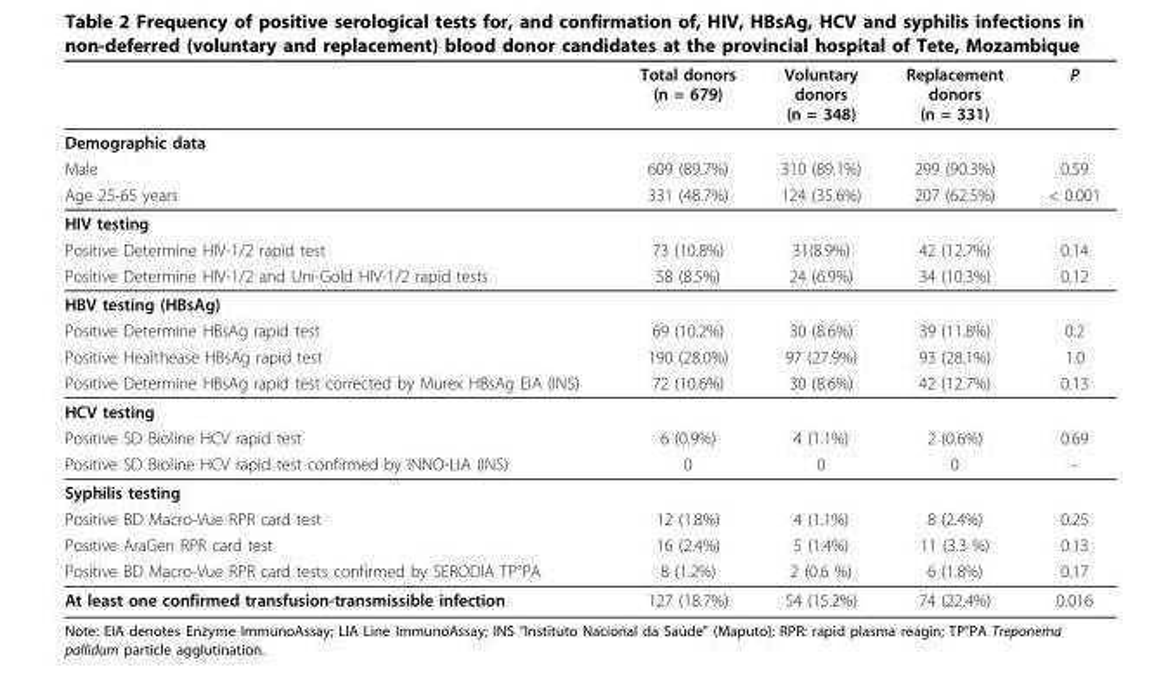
<table><thead><tr><td></td><td>Total donors (n = 679)</td><td>Voluntary donors (n = 348)</td><td>Replacement donors (n = 331)</td><td>P</td></tr></thead><tbody><tr><td colspan="5">Demographic data</td></tr><tr><td>Male</td><td>609 (89.7%)</td><td>310 (89.1%)</td><td>299 (90.3%)</td><td>0.59</td></tr><tr><td>Age 25-65 years</td><td>331 (48.7%)</td><td>124 (35.6%)</td><td>207 (62.5%)</td><td>&lt; 0.001</td></tr><tr><td colspan="5">HIV testing</td></tr><tr><td>Positive Determine HIV-1/2 rapid test</td><td>73 (10.8%)</td><td>31(8.9%)</td><td>42 (12.7%)</td><td>0.14</td></tr><tr><td>Positive Determine HIV-1/2 and Uni-Gold HIV-1/2 rapid tests</td><td>58 (8.5%)</td><td>24 (6.9%)</td><td>34 (10.3%)</td><td>0.12</td></tr><tr><td colspan="5">HBV testing (HBsAg)</td></tr><tr><td>Positive Determine HBsAg rapid test</td><td>69 (10.2%)</td><td>30 (8.6%)</td><td>39 (11.8%)</td><td>0.2</td></tr><tr><td>Positive Healthease HBsAg rapid test</td><td>190 (28.0%)</td><td>97 (27.9%)</td><td>93 (28.1%)</td><td>1.0</td></tr><tr><td>Positive Determine HBsAg rapid test corrected by Murex HBsAg EIA (INS)</td><td>72 (10.6%)</td><td>30 (8.6%)</td><td>42 (12.7%)</td><td>0.13</td></tr><tr><td colspan="5">HCV testing</td></tr><tr><td>Positive SD Bioline HCV rapid test</td><td>6 (0.9%)</td><td>4 (1.1%)</td><td>2 (0.6%)</td><td>0.69</td></tr><tr><td>Positive SD Bioline HCV rapid test confirmed by INNO-LIA (INS)</td><td>0</td><td>0</td><td>0</td><td>-</td></tr><tr><td colspan="5">Syphilis testing</td></tr><tr><td>Positive BD Macro-Vue RPR card test</td><td>12 (1.8%)</td><td>4 (1.1%)</td><td>8 (2.4%)</td><td>0.25</td></tr><tr><td>Positive AraGen RPR card test</td><td>16 (2.4%)</td><td>5 (1.4%)</td><td>11 (3.3 %)</td><td>0.13</td></tr><tr><td>Positive BD Macro-Vue RPR card tests confirmed by SERODIA TP°PA</td><td>8 (1.2%)</td><td>2 (0.6 %)</td><td>6 (1.8%)</td><td>0.17</td></tr><tr><td>At least one confirmed transfusion-transmissible infection</td><td>127 (18.7%)</td><td>54 (15.2%)</td><td>74 (22.4%)</td><td>0.016</td></tr></tbody></table>